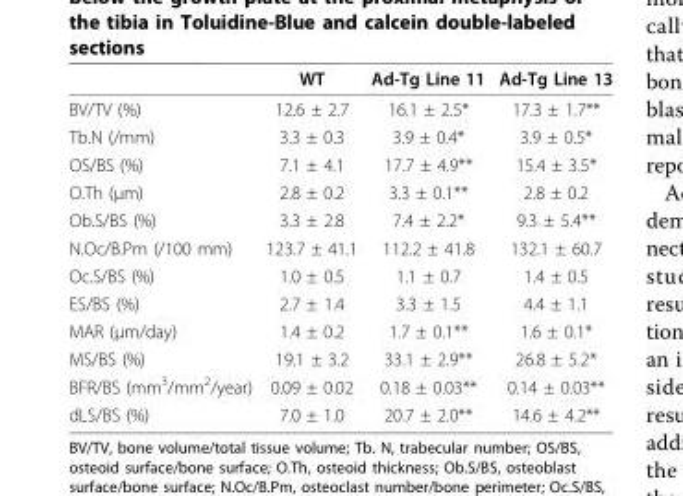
<table><thead><tr><td></td><td>WT</td><td>Ad-Tg Line 11</td><td>Ad-Tg Line 13</td></tr></thead><tbody><tr><td>BV/TV (%)</td><td>12.6 ± 2.7</td><td>16.1 ± 2.5*</td><td>17.3 ± 1.7**</td></tr><tr><td>Tb.N (/mm)</td><td>3.3 ± 0.3</td><td>3.9 ± 0.4*</td><td>3.9 ± 0.5*</td></tr><tr><td>OS/BS (%)</td><td>7.1 ± 4.1</td><td>17.7 ± 4.9**</td><td>15.4 ± 3.5*</td></tr><tr><td>O.Th (μm)</td><td>2.8 ± 0.2</td><td>3.3 ± 0.1**</td><td>2.8 ± 0.2</td></tr><tr><td>Ob.S/BS (%)</td><td>3.3 ± 2.8</td><td>7.4 ± 2.2*</td><td>9.3 ± 5.4**</td></tr><tr><td>N.Oc/B.Pm (/100 mm)</td><td>123.7 ± 41.1</td><td>112.2 ± 41.8</td><td>132.1 ± 60.7</td></tr><tr><td>Oc.S/BS (%)</td><td>1.0 ± 0.5</td><td>1.1 ± 0.7</td><td>1.4 ± 0.5</td></tr><tr><td>ES/BS (%)</td><td>2.7 ± 1.4</td><td>3.3 ± 1.5</td><td>4.4 ± 1.1</td></tr><tr><td>MAR (μm/day)</td><td>1.4 ± 0.2</td><td>1.7 ± 0.1**</td><td>1.6 ± 0.1*</td></tr><tr><td>MS/BS (%)</td><td>19.1 ± 3.2</td><td>33.1 ± 2.9**</td><td>26.8 ± 5.2*</td></tr><tr><td>BFR/BS (mm<sup>3</sup>/mm<sup>2</sup>/year)</td><td>0.09 ± 0.02</td><td>0.18 ± 0.03**</td><td>0.14 ± 0.03**</td></tr><tr><td>dLS/BS (%)</td><td>7.0 ± 1.0</td><td>20.7 ± 2.0**</td><td>14.6 ± 4.2**</td></tr></tbody></table>